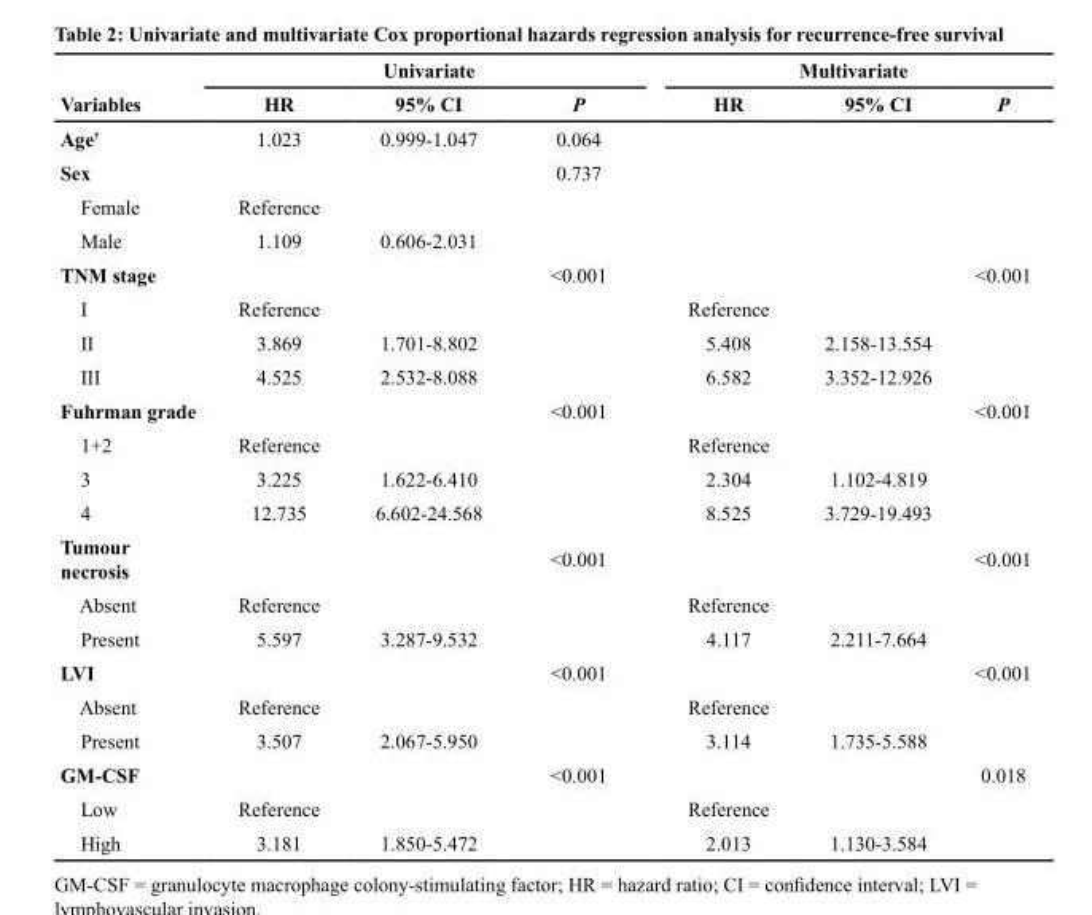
<table><thead><tr><td rowspan="2">Variables</td><td colspan="3">Univariate</td><td colspan="3">Multivariate</td></tr><tr><td>HR</td><td>95% CI</td><td>P</td><td>HR</td><td>95% CI</td><td>P</td></tr></thead><tbody><tr><td>Age†</td><td>1.023</td><td>0.999-1.047</td><td>0.064</td><td></td><td></td><td></td></tr><tr><td>Sex</td><td></td><td></td><td>0.737</td><td></td><td></td><td></td></tr><tr><td>Female</td><td>Reference</td><td></td><td></td><td></td><td></td><td></td></tr><tr><td>Male</td><td>1.109</td><td>0.606-2.031</td><td></td><td></td><td></td><td></td></tr><tr><td>TNM stage</td><td></td><td></td><td>&lt;0.001</td><td></td><td></td><td>&lt;0.001</td></tr><tr><td>I</td><td>Reference</td><td></td><td></td><td>Reference</td><td></td><td></td></tr><tr><td>II</td><td>3.869</td><td>1.701-8.802</td><td></td><td>5.408</td><td>2.158-13.554</td><td></td></tr><tr><td>III</td><td>4.525</td><td>2.532-8.088</td><td></td><td>6.582</td><td>3.352-12.926</td><td></td></tr><tr><td>Fuhrman grade</td><td></td><td></td><td>&lt;0.001</td><td></td><td></td><td>&lt;0.001</td></tr><tr><td>1+2</td><td>Reference</td><td></td><td></td><td>Reference</td><td></td><td></td></tr><tr><td>3</td><td>3.225</td><td>1.622-6.410</td><td></td><td>2.304</td><td>1.102-4.819</td><td></td></tr><tr><td>4</td><td>12.735</td><td>6.602-24.568</td><td></td><td>8.525</td><td>3.729-19.493</td><td></td></tr><tr><td>Tumour necrosis</td><td></td><td></td><td>&lt;0.001</td><td></td><td></td><td>&lt;0.001</td></tr><tr><td>Absent</td><td>Reference</td><td></td><td></td><td>Reference</td><td></td><td></td></tr><tr><td>Present</td><td>5.597</td><td>3.287-9.532</td><td></td><td>4.117</td><td>2.211-7.664</td><td></td></tr><tr><td>LVI</td><td></td><td></td><td>&lt;0.001</td><td></td><td></td><td>&lt;0.001</td></tr><tr><td>Absent</td><td>Reference</td><td></td><td></td><td>Reference</td><td></td><td></td></tr><tr><td>Present</td><td>3.507</td><td>2.067-5.950</td><td></td><td>3.114</td><td>1.735-5.588</td><td></td></tr><tr><td>GM-CSF</td><td></td><td></td><td>&lt;0.001</td><td></td><td></td><td>0.018</td></tr><tr><td>Low</td><td>Reference</td><td></td><td></td><td>Reference</td><td></td><td></td></tr><tr><td>High</td><td>3.181</td><td>1.850-5.472</td><td></td><td>2.013</td><td>1.130-3.584</td><td></td></tr></tbody></table>